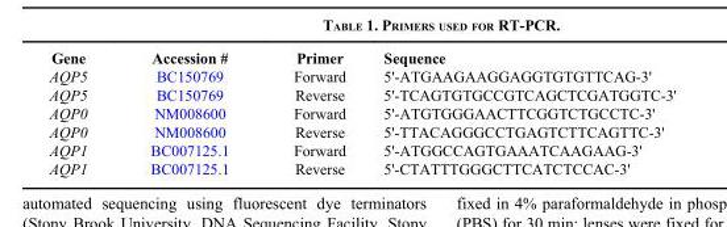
<table><thead><tr><td>Gene</td><td>Accession #</td><td>Primer</td><td>Sequence</td></tr></thead><tbody><tr><td>AQP5</td><td>BC150769</td><td>Forward</td><td>5&#x27;-ATGAAGAAGGAGGTGTGTTCAG-3&#x27;</td></tr><tr><td>AQP5</td><td>BC150769</td><td>Reverse</td><td>5&#x27;-TCAGTGTGCCGTCAGCTCGATGGTC-3&#x27;</td></tr><tr><td>AQP0</td><td>NM008600</td><td>Forward</td><td>5&#x27;-ATGTGGGAACTTCGGTCTGCCTC-3&#x27;</td></tr><tr><td>AQP0</td><td>NM008600</td><td>Reverse</td><td>5&#x27;-TTACAGGGCCTGAGTCTTCAGTTC-3&#x27;</td></tr><tr><td>AQP1</td><td>BC007125.1</td><td>Forward</td><td>5&#x27;-ATGGCCAGTGAAATCAAGAAG-3&#x27;</td></tr><tr><td>AQP1</td><td>BC007125.1</td><td>Reverse</td><td>5&#x27;-CTATTTGGGCTTCATCTCCAC-3&#x27;</td></tr></tbody></table>